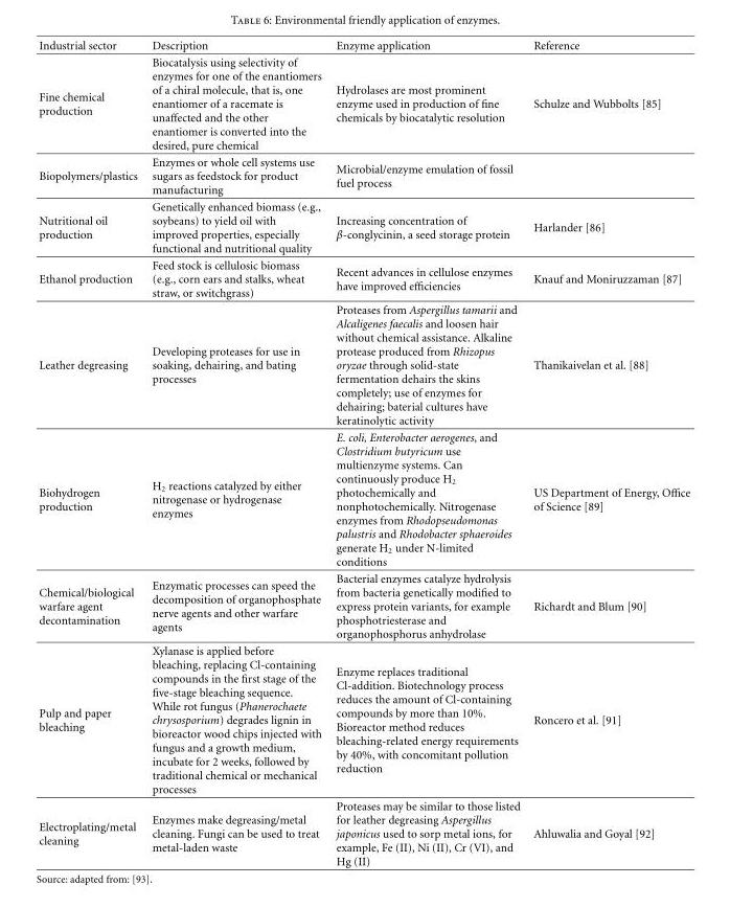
<table><thead><tr><td>Industrial sector</td><td>Description</td><td>Enzyme application</td><td>Reference</td></tr></thead><tbody><tr><td>Fine chemical production</td><td>Biocatalysis using selectivity of enzymes for one of the enantiomers of a chiral molecule, that is, one enantiomer of a racemate is unaffected and the other enantiomer is converted into the desired, pure chemical</td><td>Hydrolases are most prominent enzyme used in production of fine chemicals by biocatalytic resolution</td><td>Schulze and Wubbolts [85]</td></tr><tr><td>Biopolymers/plastics</td><td>Enzymes or whole cell systems use sugars as feedstock for product manufacturing</td><td>Microbial/enzyme emulation of fossil fuel process</td><td></td></tr><tr><td>Nutritional oil production</td><td>Genetically enhanced biomass (e.g., soybeans) to yield oil with improved properties, especially functional and nutritional quality</td><td>Increasing concentration of β-conglycinin, a seed storage protein</td><td>Harlander [86]</td></tr><tr><td>Ethanol production</td><td>Feed stock is cellulosic biomass (e.g., corn ears and stalks, wheat straw, or switchgrass)</td><td>Recent advances in cellulose enzymes have improved efficiencies</td><td>Knauf and Moniruzzaman [87]</td></tr><tr><td>Leather degreasing</td><td>Developing proteases for use in soaking, dehairing, and bating processes</td><td>Proteases from Aspergillus tamarii and Alcaligenes faecalis and loosen hair without chemical assistance. Alkaline protease produced from Rhizopus oryzae through solid-state fermentation dehairs the skins completely; use of enzymes for dehairing; baterial cultures have keratinolytic activity</td><td>Thanikaivelan et al. [88]</td></tr><tr><td>Biohydrogen production</td><td>H<sub>2</sub> reactions catalyzed by either nitrogenase or hydrogenase enzymes</td><td>E. coli, Enterobacter aerogenes, and Clostridium butyricum use multienzyme systems. Can continuously produce H<sub>2</sub> photochemically and nonphotochemically. Nitrogenase enzymes from Rhodopseudomonas palustris and Rhodobacter sphaeroides generate H<sub>2</sub> under N-limited conditions</td><td>US Department of Energy, Office of Science [89]</td></tr><tr><td>Chemical/biological warfare agent decontamination</td><td>Enzymatic processes can speed the decomposition of organophosphate nerve agents and other warfare agents</td><td>Bacterial enzymes catalyze hydrolysis from bacteria genetically modified to express protein variants, for example phosphotriesterase and organophosphorus anhydrolase</td><td>Richardt and Blum [90]</td></tr><tr><td>Pulp and paper bleaching</td><td>Xylanase is applied before bleaching, replacing Cl-containing compounds in the first stage of the five-stage bleaching sequence. While rot fungus (Phanerochaete chrysosporium) degrades lignin in bioreactor wood chips injected with fungus and a growth medium, incubate for 2 weeks, followed by traditional chemical or mechanical processes</td><td>Enzyme replaces traditional Cl-addition. Biotechnology process reduces the amount of Cl-containing compounds by more than 10%. Bioreactor method reduces bleaching-related energy requirements by 40%, with concomitant pollution reduction</td><td>Roncero et al. [91]</td></tr><tr><td>Electroplating/metal cleaning</td><td>Enzymes make degreasing/metal cleaning. Fungi can be used to treat metal-laden waste</td><td>Proteases may be similar to those listed for leather degreasing Aspergillus japonicus used to sorp metal ions, for example, Fe (II), Ni (II), Cr (VI), and Hg (II)</td><td>Ahluwalia and Goyal [92]</td></tr></tbody></table>